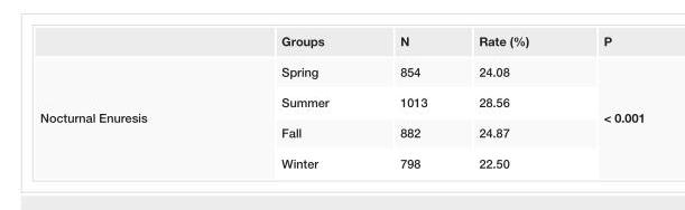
<table><thead><tr><td></td><td>Groups</td><td>N</td><td>Rate (%)</td><td>P</td></tr></thead><tbody><tr><td rowspan="4">Nocturnal Enuresis</td><td>Spring</td><td>854</td><td>24.08</td><td rowspan="4">&lt; 0.001</td></tr><tr><td>Summer</td><td>1013</td><td>28.56</td></tr><tr><td>Fall</td><td>882</td><td>24.87</td></tr><tr><td>Winter</td><td>798</td><td>22.50</td></tr></tbody></table>